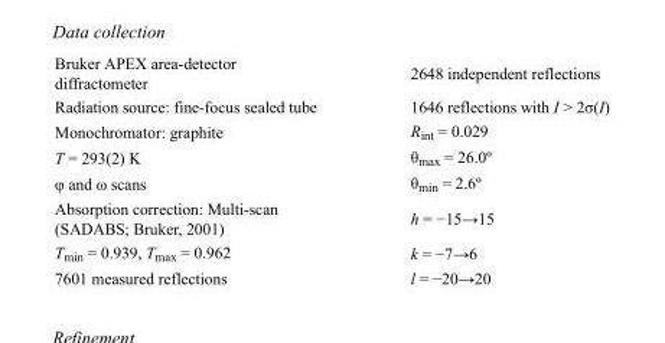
<table><tbody><tr><td>Bruker APEX area-detector diffractometer</td><td>2648 independent reflections</td></tr><tr><td>Radiation source: fine-focus sealed tube</td><td>1646 reflections with I &gt; 2σ(I)</td></tr><tr><td>Monochromator: graphite</td><td>R<sub>int</sub> = 0.029</td></tr><tr><td>T = 293(2) K</td><td>θ<sub>max</sub> = 26.0º</td></tr><tr><td>φ and ω scans</td><td>θ<sub>min</sub> = 2.6º</td></tr><tr><td>Absorption correction: Multi-scan (SADABS; Bruker, 2001)</td><td>h = −15→15</td></tr><tr><td>T<sub>min</sub> = 0.939, T<sub>max</sub> = 0.962</td><td>k = −7→6</td></tr><tr><td>7601 measured reflections</td><td>l = −20→20</td></tr></tbody></table>